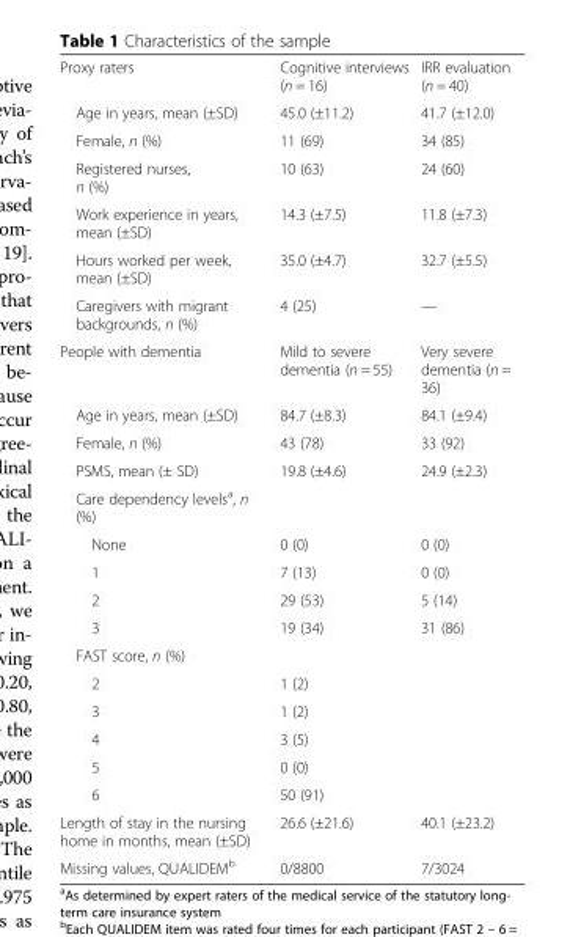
<table><tbody><tr><td>Proxy raters</td><td>Cognitive interviews (n = 16)</td><td>IRR evaluation (n = 40)</td></tr><tr><td>Age in years, mean (±SD)</td><td>45.0 (±11.2)</td><td>41.7 (±12.0)</td></tr><tr><td>Female, n (%)</td><td>11 (69)</td><td>34 (85)</td></tr><tr><td>Registered nurses, n (%)</td><td>10 (63)</td><td>24 (60)</td></tr><tr><td>Work experience in years, mean (±SD)</td><td>14.3 (±7.5)</td><td>11.8 (±7.3)</td></tr><tr><td>Hours worked per week, mean (±SD)</td><td>35.0 (±4.7)</td><td>32.7 (±5.5)</td></tr><tr><td>Caregivers with migrant backgrounds, n (%)</td><td>4 (25)</td><td>—</td></tr><tr><td>People with dementia</td><td>Mild to severe dementia (n = 55)</td><td>Very severe dementia (n = 36)</td></tr><tr><td>Age in years, mean (±SD)</td><td>84.7 (±8.3)</td><td>84.1 (±9.4)</td></tr><tr><td>Female, n (%)</td><td>43 (78)</td><td>33 (92)</td></tr><tr><td>PSMS, mean (± SD)</td><td>19.8 (±4.6)</td><td>24.9 (±2.3)</td></tr><tr><td colspan="3">Care dependency levels<sup>a</sup>, n (%)</td></tr><tr><td>None</td><td>0 (0)</td><td>0 (0)</td></tr><tr><td>1</td><td>7 (13)</td><td>0 (0)</td></tr><tr><td>2</td><td>29 (53)</td><td>5 (14)</td></tr><tr><td>3</td><td>19 (34)</td><td>31 (86)</td></tr><tr><td colspan="3">FAST score, n (%)</td></tr><tr><td>2</td><td>1 (2)</td><td></td></tr><tr><td>3</td><td>1 (2)</td><td></td></tr><tr><td>4</td><td>3 (5)</td><td></td></tr><tr><td>5</td><td>0 (0)</td><td></td></tr><tr><td>6</td><td>50 (91)</td><td></td></tr><tr><td>Length of stay in the nursing home in months, mean (±SD)</td><td>26.6 (±21.6)</td><td>40.1 (±23.2)</td></tr><tr><td>Missing values, QUALIDEM<sup>b</sup></td><td>0/8800</td><td>7/3024</td></tr></tbody></table>